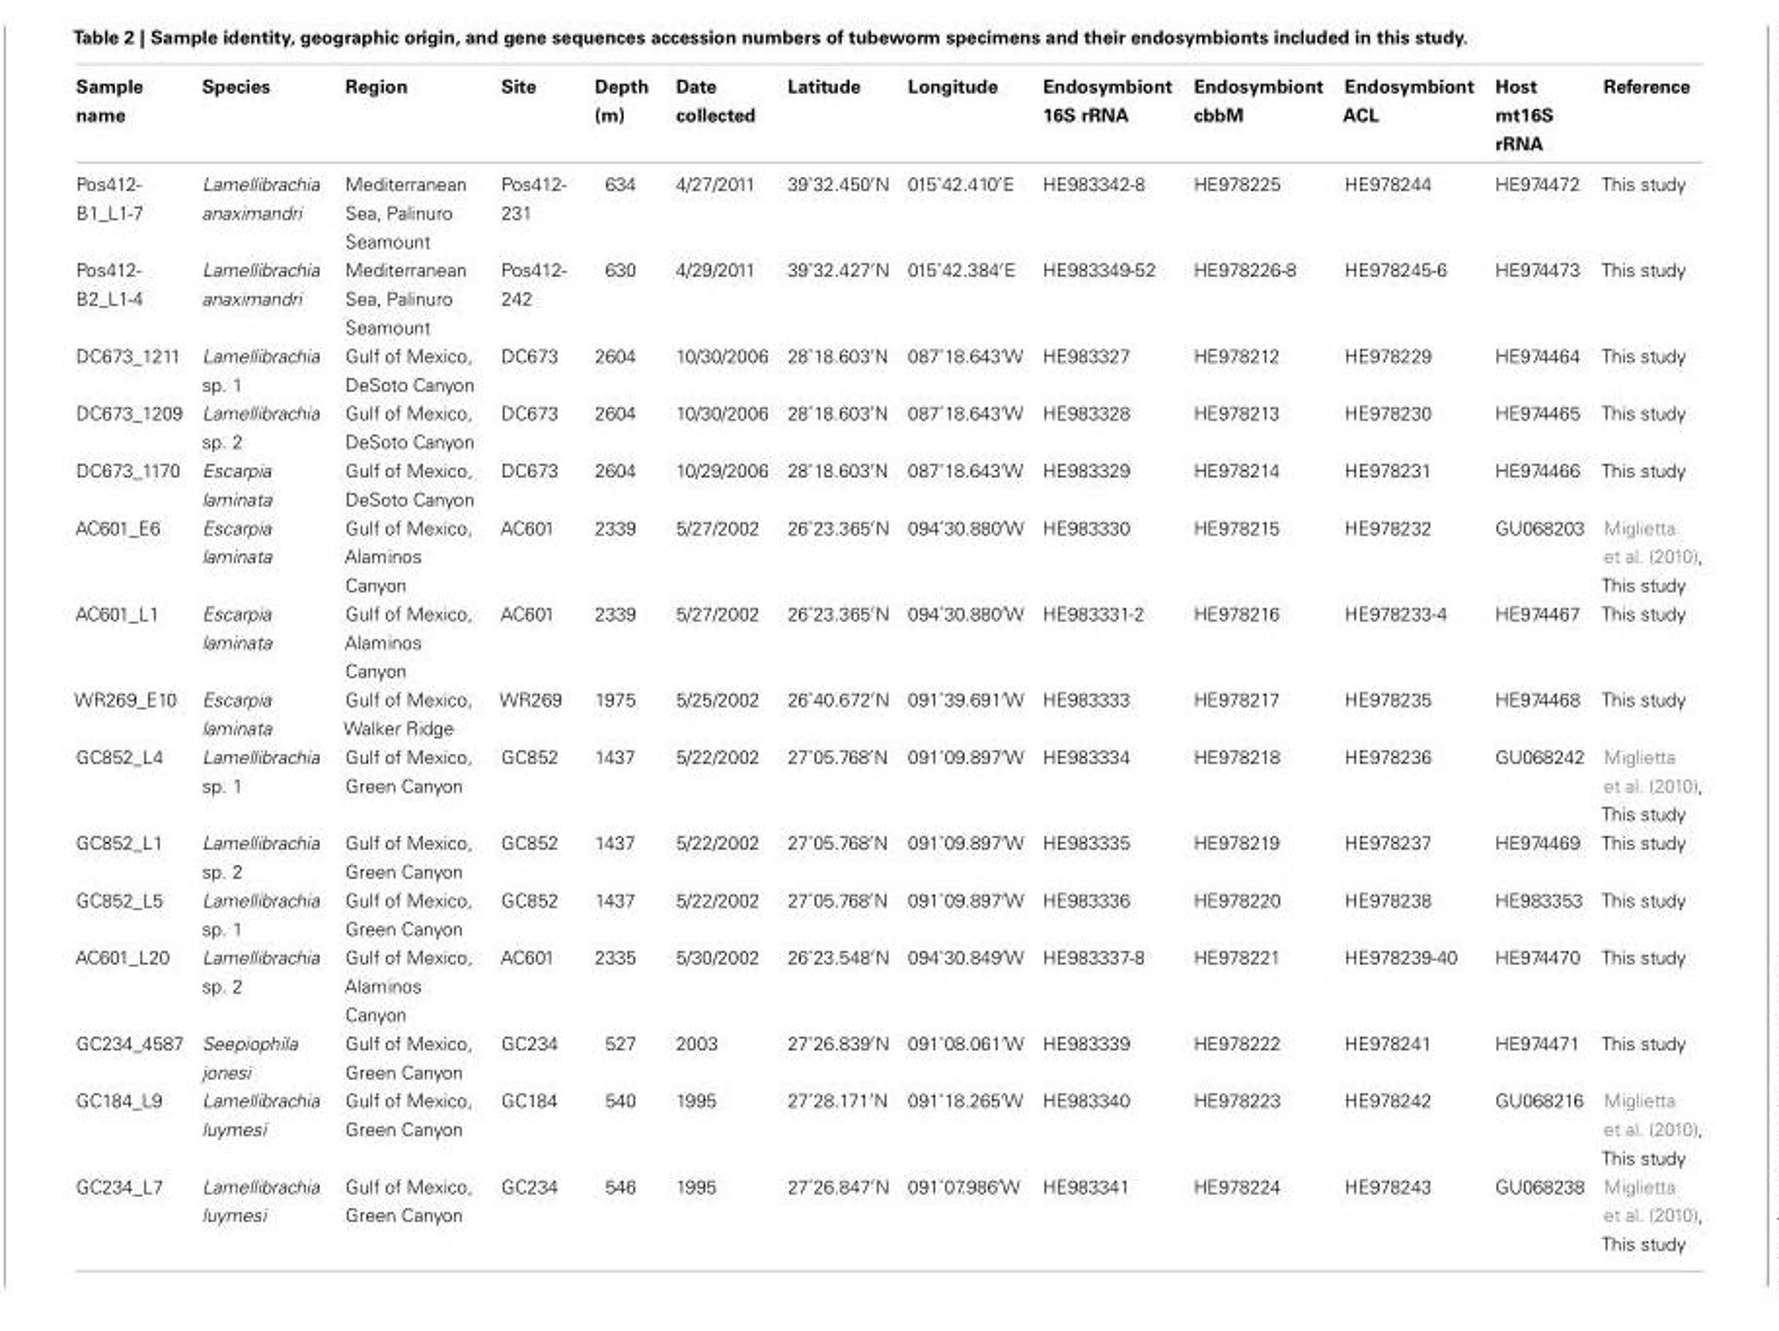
<table><thead><tr><td>Sample name</td><td>Species</td><td>Region</td><td>Site</td><td>Depth (m)</td><td>Date collected</td><td>Latitude</td><td>Longitude</td><td>Endosymbiont 16S rRNA</td><td>Endosymbiont cbbM</td><td>Endosymbiont ACL</td><td>Host mt16S rRNA</td><td>Reference</td></tr></thead><tbody><tr><td>Pos412- B1_L1-7</td><td>Lamellibrachia anaximandri</td><td>Mediterranean Sea, Palinuro Seamount</td><td>Pos412- 231</td><td>634</td><td>4/27/2011</td><td>39˚32.450′N</td><td>015˚42.410′E</td><td>HE983342-8</td><td>HE978225</td><td>HE978244</td><td>HE974472</td><td>This study</td></tr><tr><td>Pos412- B2_L1-4</td><td>Lamellibrachia anaximandri</td><td>Mediterranean Sea, Palinuro Seamount</td><td>Pos412- 242</td><td>630</td><td>4/29/2011</td><td>39˚32.427′N</td><td>015˚42.384′E</td><td>HE983349-52</td><td>HE978226-8</td><td>HE978245-6</td><td>HE974473</td><td>This study</td></tr><tr><td>DC673_1211</td><td>Lamellibrachia sp. 1</td><td>Gulf of Mexico, DeSoto Canyon</td><td>DC673</td><td>2604</td><td>10/30/2006</td><td>28˚18.603′N</td><td>087˚18.643′W</td><td>HE983327</td><td>HE978212</td><td>HE978229</td><td>HE974464</td><td>This study</td></tr><tr><td>DC673_1209</td><td>Lamellibrachia sp. 2</td><td>Gulf of Mexico, DeSoto Canyon</td><td>DC673</td><td>2604</td><td>10/30/2006</td><td>28˚18.603′N</td><td>087˚18.643′W</td><td>HE983328</td><td>HE978213</td><td>HE978230</td><td>HE974465</td><td>This study</td></tr><tr><td>DC673_1170</td><td>Escarpia laminata</td><td>Gulf of Mexico, DeSoto Canyon</td><td>DC673</td><td>2604</td><td>10/29/2006</td><td>28˚18.603′N</td><td>087˚18.643′W</td><td>HE983329</td><td>HE978214</td><td>HE978231</td><td>HE974466</td><td>This study</td></tr><tr><td>AC601_E6</td><td>Escarpia laminata</td><td>Gulf of Mexico, Alaminos Canyon</td><td>AC601</td><td>2339</td><td>5/27/2002</td><td>26˚23.365′N</td><td>094˚30.880′W</td><td>HE983330</td><td>HE978215</td><td>HE978232</td><td>GU068203</td><td>Miglietta et al. (2010), This study</td></tr><tr><td>AC601_L1</td><td>Escarpia laminata</td><td>Gulf of Mexico, Alaminos Canyon</td><td>AC601</td><td>2339</td><td>5/27/2002</td><td>26˚23.365′N</td><td>094˚30.880′W</td><td>HE983331-2</td><td>HE978216</td><td>HE978233-4</td><td>HE974467</td><td>This study</td></tr><tr><td>WR269_E10</td><td>Escarpia laminata</td><td>Gulf of Mexico, Walker Ridge</td><td>WR269</td><td>1975</td><td>5/25/2002</td><td>26˚40.672′N</td><td>091˚39.691′W</td><td>HE983333</td><td>HE978217</td><td>HE978235</td><td>HE974468</td><td>This study</td></tr><tr><td>GC852_L4</td><td>Lamellibrachia sp. 1</td><td>Gulf of Mexico, Green Canyon</td><td>GC852</td><td>1437</td><td>5/22/2002</td><td>27˚05.768′N</td><td>091˚09.897′W</td><td>HE983334</td><td>HE978218</td><td>HE978236</td><td>GU068242</td><td>Miglietta et al. (2010), This study</td></tr><tr><td>GC852_L1</td><td>Lamellibrachia sp. 2</td><td>Gulf of Mexico, Green Canyon</td><td>GC852</td><td>1437</td><td>5/22/2002</td><td>27˚05.768′N</td><td>091˚09.897′W</td><td>HE983335</td><td>HE978219</td><td>HE978237</td><td>HE974469</td><td>This study</td></tr><tr><td>GC852_L5</td><td>Lamellibrachia sp. 1</td><td>Gulf of Mexico, Green Canyon</td><td>GC852</td><td>1437</td><td>5/22/2002</td><td>27˚05.768′N</td><td>091˚09.897′W</td><td>HE983336</td><td>HE978220</td><td>HE978238</td><td>HE983353</td><td>This study</td></tr><tr><td>AC601_L20</td><td>Lamellibrachia sp. 2</td><td>Gulf of Mexico, Alaminos Canyon</td><td>AC601</td><td>2335</td><td>5/30/2002</td><td>26˚23.548′N</td><td>094˚30.849′W</td><td>HE983337-8</td><td>HE978221</td><td>HE978239-40</td><td>HE974470</td><td>This study</td></tr><tr><td>GC234_4587</td><td>Seepiophila jonesi</td><td>Gulf of Mexico, Green Canyon</td><td>GC234</td><td>527</td><td>2003</td><td>27˚26.839′N</td><td>091˚08.061′W</td><td>HE983339</td><td>HE978222</td><td>HE978241</td><td>HE974471</td><td>This study</td></tr><tr><td>GC184_L9</td><td>Lamellibrachia luymesi</td><td>Gulf of Mexico, Green Canyon</td><td>GC184</td><td>540</td><td>1995</td><td>27˚28.171′N</td><td>091˚18.265′W</td><td>HE983340</td><td>HE978223</td><td>HE978242</td><td>GU068216</td><td>Miglietta et al. (2010), This study</td></tr><tr><td>GC234_L7</td><td>Lamellibrachia luymesi</td><td>Gulf of Mexico, Green Canyon</td><td>GC234</td><td>546</td><td>1995</td><td>27˚26.847′N</td><td>091˚07.986′W</td><td>HE983341</td><td>HE978224</td><td>HE978243</td><td>GU068238</td><td>Miglietta et al. (2010), This study</td></tr></tbody></table>